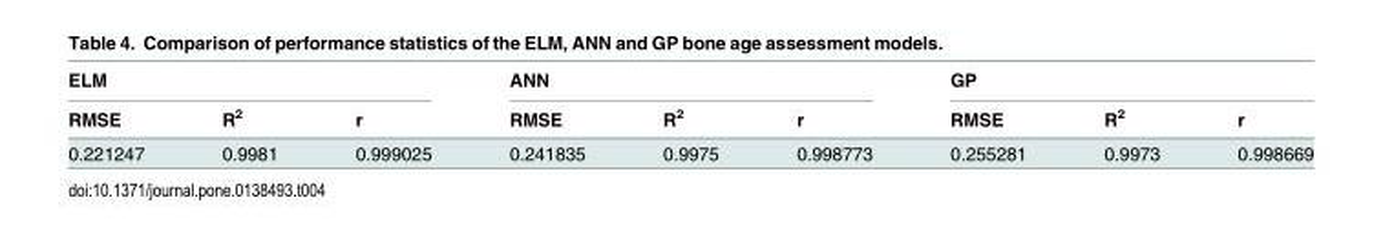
<table><thead><tr><td colspan="3">ELM</td><td colspan="3">ANN</td><td colspan="3">GP</td></tr><tr><td>RMSE</td><td>R<sup>2</sup></td><td>r</td><td>RMSE</td><td>R<sup>2</sup></td><td>r</td><td>RMSE</td><td>R<sup>2</sup></td><td>r</td></tr></thead><tbody><tr><td>0.221247</td><td>0.9981</td><td>0.999025</td><td>0.241835</td><td>0.9975</td><td>0.998773</td><td>0.255281</td><td>0.9973</td><td>0.998669</td></tr></tbody></table>